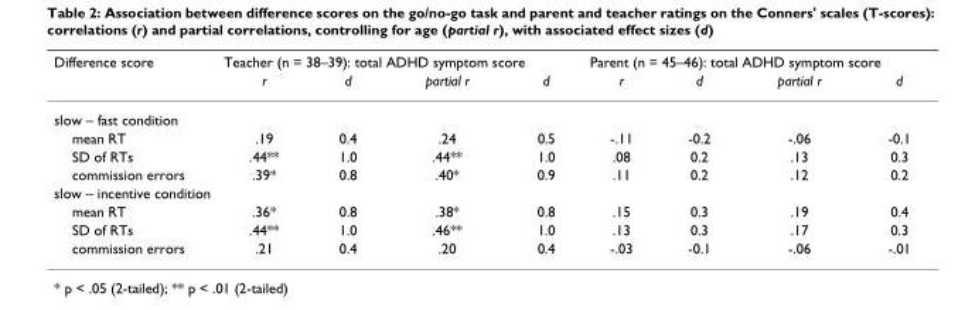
<table><thead><tr><td rowspan="2">Difference score</td><td colspan="4">Teacher (n = 38–39): total ADHD symptom score</td><td colspan="4">Parent (n = 45–46): total ADHD symptom score</td></tr><tr><td>r</td><td>d</td><td>partial r</td><td>d</td><td>r</td><td>d</td><td>partial r</td><td>d</td></tr></thead><tbody><tr><td colspan="9">slow – fast condition</td></tr><tr><td>mean RT</td><td>.19</td><td>0.4</td><td>.24</td><td>0.5</td><td>-.11</td><td>-0.2</td><td>-.06</td><td>-0.1</td></tr><tr><td>SD of RTs</td><td>.44**</td><td>1.0</td><td>.44**</td><td>1.0</td><td>.08</td><td>0.2</td><td>.13</td><td>0.3</td></tr><tr><td>commission errors</td><td>.39*</td><td>0.8</td><td>.40*</td><td>0.9</td><td>.11</td><td>0.2</td><td>.12</td><td>0.2</td></tr><tr><td colspan="9">slow – incentive condition</td></tr><tr><td>mean RT</td><td>.36*</td><td>0.8</td><td>.38*</td><td>0.8</td><td>.15</td><td>0.3</td><td>.19</td><td>0.4</td></tr><tr><td>SD of RTs</td><td>.44**</td><td>1.0</td><td>.46**</td><td>1.0</td><td>.13</td><td>0.3</td><td>.17</td><td>0.3</td></tr><tr><td>commission errors</td><td>.21</td><td>0.4</td><td>.20</td><td>0.4</td><td>-.03</td><td>-0.1</td><td>-.06</td><td>-.01</td></tr></tbody></table>